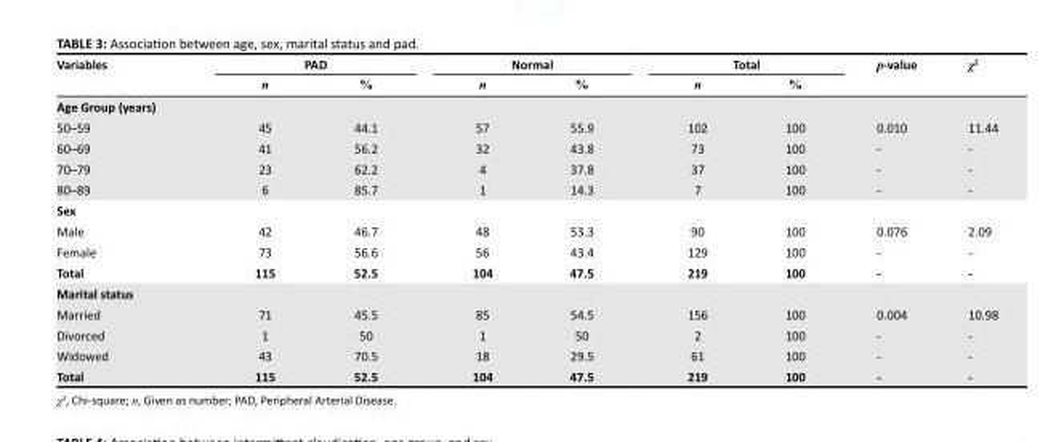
<table><thead><tr><td rowspan="2">Variables</td><td colspan="2">PAD</td><td colspan="2">Normal</td><td colspan="2">Total</td><td rowspan="2">p-value</td><td rowspan="2">χ<sup>2</sup></td></tr><tr><td>n</td><td>%</td><td>n</td><td>%</td><td>n</td><td>%</td></tr></thead><tbody><tr><td colspan="9">Age Group (years)</td></tr><tr><td>50–59</td><td>45</td><td>44.1</td><td>57</td><td>55.9</td><td>102</td><td>100</td><td>0.010</td><td>11.44</td></tr><tr><td>60–69</td><td>41</td><td>56.2</td><td>32</td><td>43.8</td><td>73</td><td>100</td><td>-</td><td>-</td></tr><tr><td>70–79</td><td>23</td><td>62.2</td><td>4</td><td>37.8</td><td>37</td><td>100</td><td>-</td><td>-</td></tr><tr><td>80–89</td><td>6</td><td>85.7</td><td>1</td><td>14.3</td><td>7</td><td>100</td><td>-</td><td>-</td></tr><tr><td colspan="9">Sex</td></tr><tr><td>Male</td><td>42</td><td>46.7</td><td>48</td><td>53.3</td><td>90</td><td>100</td><td>0.076</td><td>2.09</td></tr><tr><td>Female</td><td>73</td><td>56.6</td><td>56</td><td>43.4</td><td>129</td><td>100</td><td>-</td><td>-</td></tr><tr><td>Total</td><td>115</td><td>52.5</td><td>104</td><td>47.5</td><td>219</td><td>100</td><td>-</td><td>-</td></tr><tr><td colspan="9">Marital status</td></tr><tr><td>Married</td><td>71</td><td>45.5</td><td>85</td><td>54.5</td><td>156</td><td>100</td><td>0.004</td><td>10.98</td></tr><tr><td>Divorced</td><td>1</td><td>50</td><td>1</td><td>50</td><td>2</td><td>100</td><td>-</td><td>-</td></tr><tr><td>Widowed</td><td>43</td><td>70.5</td><td>18</td><td>29.5</td><td>61</td><td>100</td><td>-</td><td>-</td></tr><tr><td>Total</td><td>115</td><td>52.5</td><td>104</td><td>47.5</td><td>219</td><td>100</td><td>-</td><td>-</td></tr></tbody></table>